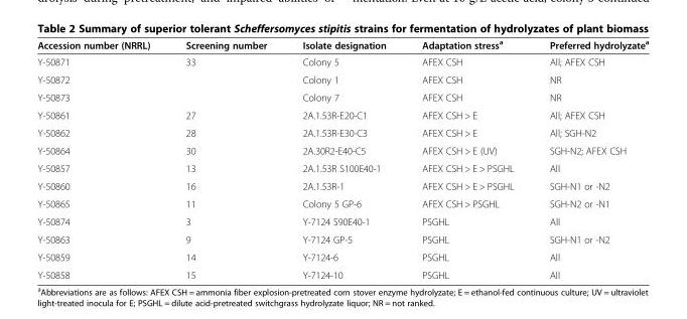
<table><thead><tr><td>Accession number (NRRL)</td><td>Screening number</td><td>Isolate designation</td><td>Adaptation stress<sup>a</sup></td><td>Preferred hydrolyzate<sup>a</sup></td></tr></thead><tbody><tr><td>Y-50871</td><td>33</td><td>Colony 5</td><td>AFEX CSH</td><td>All; AFEX CSH</td></tr><tr><td>Y-50872</td><td></td><td>Colony 1</td><td>AFEX CSH</td><td>NR</td></tr><tr><td>Y-50873</td><td></td><td>Colony 7</td><td>AFEX CSH</td><td>NR</td></tr><tr><td>Y-50861</td><td>27</td><td>2A.1.53R-E20-C1</td><td>AFEX CSH &gt; E</td><td>All; AFEX CSH</td></tr><tr><td>Y-50862</td><td>28</td><td>2A.1.53R-E30-C3</td><td>AFEX CSH &gt; E</td><td>All; SGH-N2</td></tr><tr><td>Y-50864</td><td>30</td><td>2A.30R2-E40-C5</td><td>AFEX CSH &gt; E (UV)</td><td>SGH-N2; AFEX CSH</td></tr><tr><td>Y-50857</td><td>13</td><td>2A.1.53R S100E40-1</td><td>AFEX CSH &gt; E &gt; PSGHL</td><td>All</td></tr><tr><td>Y-50860</td><td>16</td><td>2A.1.53R-1</td><td>AFEX CSH &gt; E &gt; PSGHL</td><td>SGH-N1 or -N2</td></tr><tr><td>Y-50865</td><td>11</td><td>Colony 5 GP-6</td><td>AFEX CSH &gt; PSGHL</td><td>SGH-N2 or -N1</td></tr><tr><td>Y-50874</td><td>3</td><td>Y-7124 S90E40-1</td><td>PSGHL</td><td>All</td></tr><tr><td>Y-50863</td><td>9</td><td>Y-7124 GP-5</td><td>PSGHL</td><td>SGH-N1 or -N2</td></tr><tr><td>Y-50859</td><td>14</td><td>Y-7124-6</td><td>PSGHL</td><td>All</td></tr><tr><td>Y-50858</td><td>15</td><td>Y-7124-10</td><td>PSGHL</td><td>All</td></tr></tbody></table>